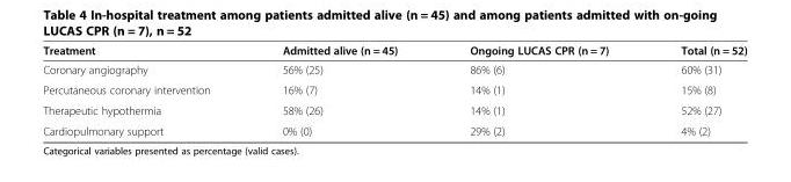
<table><thead><tr><td>Treatment</td><td>Admitted alive (n = 45)</td><td>Ongoing LUCAS CPR (n = 7)</td><td>Total (n = 52)</td></tr></thead><tbody><tr><td>Coronary angiography</td><td>56% (25)</td><td>86% (6)</td><td>60% (31)</td></tr><tr><td>Percutaneous coronary intervention</td><td>16% (7)</td><td>14% (1)</td><td>15% (8)</td></tr><tr><td>Therapeutic hypothermia</td><td>58% (26)</td><td>14% (1)</td><td>52% (27)</td></tr><tr><td>Cardiopulmonary support</td><td>0% (0)</td><td>29% (2)</td><td>4% (2)</td></tr></tbody></table>